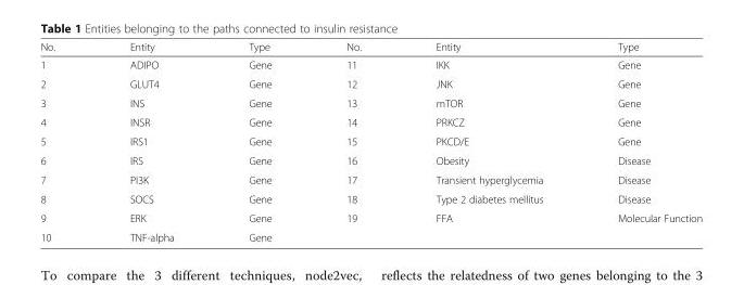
<table><thead><tr><td>No.</td><td>Entity</td><td>Type</td><td>No.</td><td>Entity</td><td>Type</td></tr></thead><tbody><tr><td>1</td><td>ADIPO</td><td>Gene</td><td>11</td><td>IKK</td><td>Gene</td></tr><tr><td>2</td><td>GLUT4</td><td>Gene</td><td>12</td><td>JNK</td><td>Gene</td></tr><tr><td>3</td><td>INS</td><td>Gene</td><td>13</td><td>mTOR</td><td>Gene</td></tr><tr><td>4</td><td>INSR</td><td>Gene</td><td>14</td><td>PRKCZ</td><td>Gene</td></tr><tr><td>5</td><td>IRS1</td><td>Gene</td><td>15</td><td>PKCD/E</td><td>Gene</td></tr><tr><td>6</td><td>IRS</td><td>Gene</td><td>16</td><td>Obesity</td><td>Disease</td></tr><tr><td>7</td><td>PI3K</td><td>Gene</td><td>17</td><td>Transient hyperglycemia</td><td>Disease</td></tr><tr><td>8</td><td>SOCS</td><td>Gene</td><td>18</td><td>Type 2 diabetes mellitus</td><td>Disease</td></tr><tr><td>9</td><td>ERK</td><td>Gene</td><td>19</td><td>FFA</td><td>Molecular Function</td></tr><tr><td>10</td><td>TNF-alpha</td><td>Gene</td><td></td><td></td><td></td></tr></tbody></table>